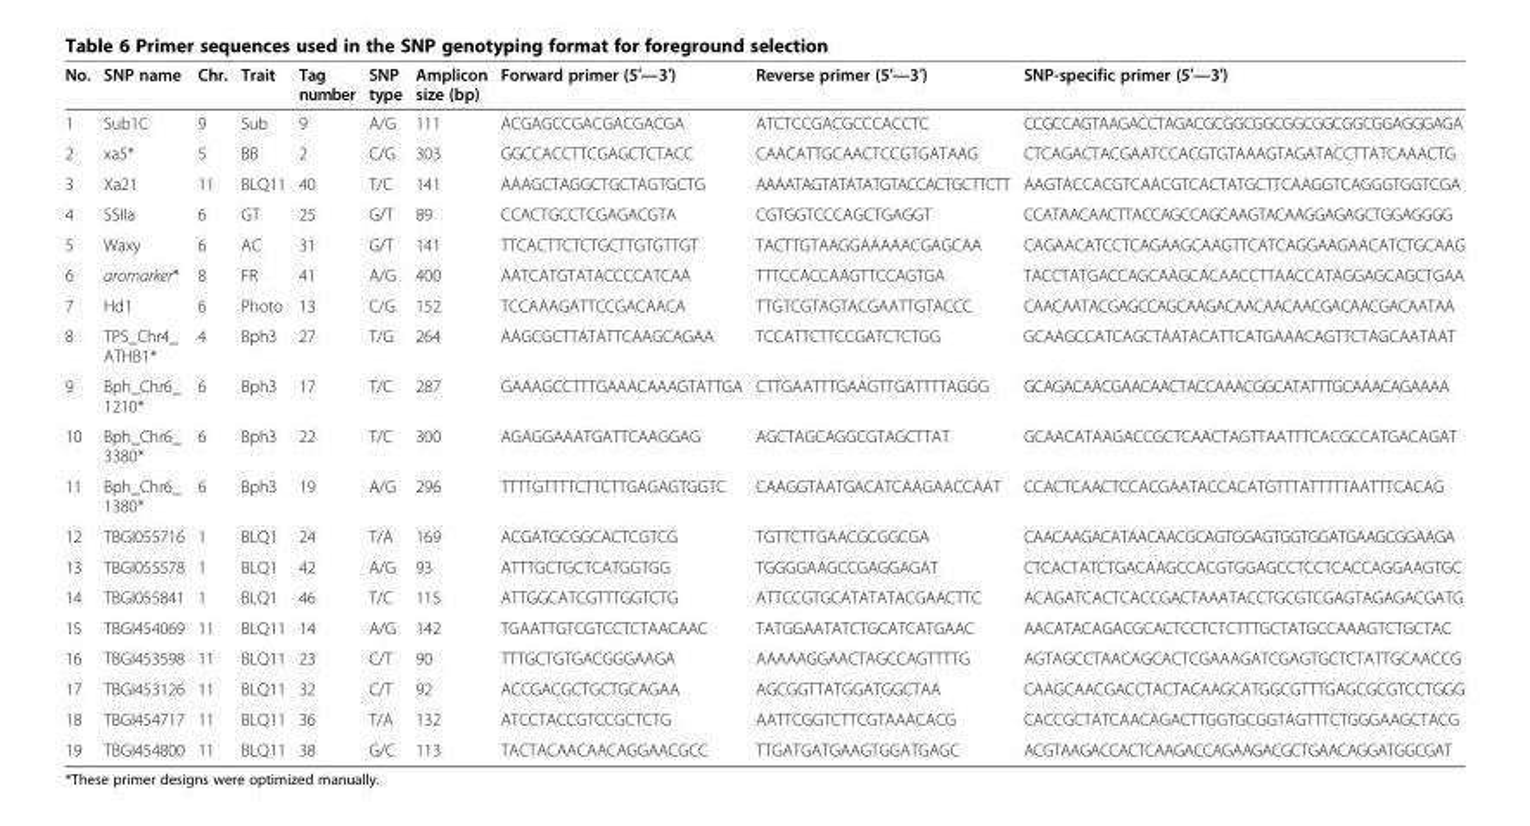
<table><thead><tr><td>No.</td><td>SNP name</td><td>Chr.</td><td>Trait</td><td>Tag number</td><td>SNP type</td><td>Amplicon size (bp)</td><td>Forward primer (5′—3′)</td><td>Reverse primer (5′—3′)</td><td>SNP-specific primer (5′—3′)</td></tr></thead><tbody><tr><td>1</td><td>Sub1C</td><td>9</td><td>Sub</td><td>9</td><td>A/G</td><td>111</td><td>ACGAGCCGACGACGACGA</td><td>ATCTCCGACGCCCACCTC</td><td>CCGCCAGTAAGACCTAGACGCGGCGGCGGCGGCGGCGGAGGGAGA</td></tr><tr><td>2</td><td>xa5*</td><td>5</td><td>BB</td><td>2</td><td>C/G</td><td>303</td><td>GGCCACCTTCGAGCTCTACC</td><td>CAACATTGCAACTCCGTGATAAG</td><td>CTCAGACTACGAATCCACGTGTAAAGTAGATACCTTATCAAACTG</td></tr><tr><td>3</td><td>Xa21</td><td>11</td><td>BLQ11</td><td>40</td><td>T/C</td><td>141</td><td>AAAGCTAGGCTGCTAGTGCTG</td><td>AAAATAGTATATATGTACCACTGCTTCTT</td><td>AAGTACCACGTCAACGTCACTATGCTTCAAGGTCAGGGTGGTCGA</td></tr><tr><td>4</td><td>SSIIa</td><td>6</td><td>GT</td><td>25</td><td>G/T</td><td>89</td><td>CCACTGCCTCGAGACGTA</td><td>CGTGGTCCCAGCTGAGGT</td><td>CCATAACAACTTACCAGCCAGCAAGTACAAGGAGAGCTGGAGGGG</td></tr><tr><td>5</td><td>Waxy</td><td>6</td><td>AC</td><td>31</td><td>G/T</td><td>141</td><td>TTCACTTCTCTGCTTGTGTTGT</td><td>TACTTGTAAGGAAAAACGAGCAA</td><td>CAGAACATCCTCAGAAGCAAGTTCATCAGGAAGAACATCTGCAAG</td></tr><tr><td>6</td><td>aromarker*</td><td>8</td><td>FR</td><td>41</td><td>A/G</td><td>400</td><td>AATCATGTATACCCCATCAA</td><td>TTTCCACCAAGTTCCAGTGA</td><td>TACCTATGACCAGCAAGCACAACCTTAACCATAGGAGCAGCTGAA</td></tr><tr><td>7</td><td>Hd1</td><td>6</td><td>Photo</td><td>13</td><td>C/G</td><td>152</td><td>TCCAAAGATTCCGACAACA</td><td>TTGTCGTAGTACGAATTGTACCC</td><td>CAACAATACGAGCCAGCAAGACAACAACAACGACAACGACAATAA</td></tr><tr><td>8</td><td>TPS_Chr4_ ATHB1*</td><td>4</td><td>Bph3</td><td>27</td><td>T/G</td><td>264</td><td>AAGCGCTTATATTCAAGCAGAA</td><td>TCCATTCTTCCGATCTCTGG</td><td>GCAAGCCATCAGCTAATACATTCATGAAACAGTTCTAGCAATAAT</td></tr><tr><td>9</td><td>Bph_Chr6_ 1210*</td><td>6</td><td>Bph3</td><td>17</td><td>T/C</td><td>287</td><td>GAAAGCCTTTGAAACAAAGTATTGA</td><td>CTTGAATTTGAAGTTGATTTTAGGG</td><td>GCAGACAACGAACAACTACCAAACGGCATATTTGCAAACAGAAAA</td></tr><tr><td>10</td><td>Bph_Chr6_ 3380*</td><td>6</td><td>Bph3</td><td>22</td><td>T/C</td><td>300</td><td>AGAGGAAATGATTCAAGGAG</td><td>AGCTAGCAGGCGTAGCTTAT</td><td>GCAACATAAGACCGCTCAACTAGTTAATTTCACGCCATGACAGAT</td></tr><tr><td>11</td><td>Bph_Chr6_ 1380*</td><td>6</td><td>Bph3</td><td>19</td><td>A/G</td><td>296</td><td>TTTTGTTTTCTTCTTGAGAGTGGTC</td><td>CAAGGTAATGACATCAAGAACCAAT</td><td>CCACTCAACTCCACGAATACCACATGTTTATTTTTAATTTCACAG</td></tr><tr><td>12</td><td>TBGI055716</td><td>1</td><td>BLQ1</td><td>24</td><td>T/A</td><td>169</td><td>ACGATGCGGCACTCGTCG</td><td>TGTTCTTGAACGCGGCGA</td><td>CAACAAGACATAACAACGCAGTGGAGTGGTGGATGAAGCGGAAGA</td></tr><tr><td>13</td><td>TBGI055578</td><td>1</td><td>BLQ1</td><td>42</td><td>A/G</td><td>93</td><td>ATTTGCTGCTCATGGTGG</td><td>TGGGGAAGCCGAGGAGAT</td><td>CTCACTATCTGACAAGCCACGTGGAGCCTCCTCACCAGGAAGTGC</td></tr><tr><td>14</td><td>TBGI055841</td><td>1</td><td>BLQ1</td><td>46</td><td>T/C</td><td>115</td><td>ATTGGCATCGTTTGGTCTG</td><td>ATTCCGTGCATATATACGAACTTC</td><td>ACAGATCACTCACCGACTAAATACCTGCGTCGAGTAGAGACGATG</td></tr><tr><td>15</td><td>TBGI454069</td><td>11</td><td>BLQ11</td><td>14</td><td>A/G</td><td>142</td><td>TGAATTGTCGTCCTCTAACAAC</td><td>TATGGAATATCTGCATCATGAAC</td><td>AACATACAGACGCACTCCTCTCTTTGCTATGCCAAAGTCTGCTAC</td></tr><tr><td>16</td><td>TBGI453598</td><td>11</td><td>BLQ11</td><td>23</td><td>C/T</td><td>90</td><td>TTTGCTGTGACGGGAAGA</td><td>AAAAAGGAACTAGCCAGTTTTG</td><td>AGTAGCCTAACAGCACTCGAAAGATCGAGTGCTCTATTGCAACCG</td></tr><tr><td>17</td><td>TBGI453126</td><td>11</td><td>BLQ11</td><td>32</td><td>C/T</td><td>92</td><td>ACCGACGCTGCTGCAGAA</td><td>AGCGGTTATGGATGGCTAA</td><td>CAAGCAACGACCTACTACAAGCATGGCGTTTGAGCGCGTCCTGGG</td></tr><tr><td>18</td><td>TBGI454717</td><td>11</td><td>BLQ11</td><td>36</td><td>T/A</td><td>132</td><td>ATCCTACCGTCCGCTCTG</td><td>AATTCGGTCTTCGTAAACACG</td><td>CACCGCTATCAACAGACTTGGTGCGGTAGTTTCTGGGAAGCTACG</td></tr><tr><td>19</td><td>TBGI454800</td><td>11</td><td>BLQ11</td><td>38</td><td>G/C</td><td>113</td><td>TACTACAACAACAGGAACGCC</td><td>TTGATGATGAAGTGGATGAGC</td><td>ACGTAAGACCACTCAAGACCAGAAGACGCTGAACAGGATGGCGAT</td></tr></tbody></table>